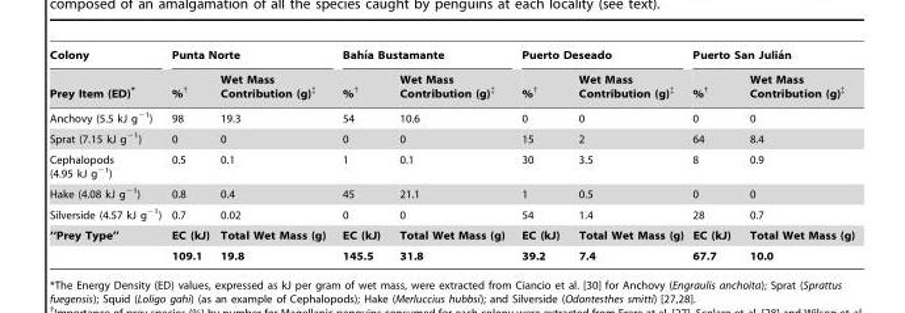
<table><thead><tr><td rowspan="2">Colony Prey Item (ED)*</td><td colspan="2">Punta Norte</td><td colspan="2">Bahı´a Bustamante</td><td colspan="2">Puerto Deseado</td><td colspan="2">Puerto San Julia´n</td></tr><tr><td>%†</td><td>Wet Mass Contribution (g)‡</td><td>%†</td><td>Wet Mass Contribution (g)‡</td><td>%†</td><td>Wet Mass Contribution (g)‡</td><td>%†</td><td>Wet Mass Contribution (g)‡</td></tr></thead><tbody><tr><td>Anchovy (5.5 kJ g<sup>−1</sup>)</td><td>98</td><td>19.3</td><td>54</td><td>10.6</td><td>0</td><td>0</td><td>0</td><td>0</td></tr><tr><td>Sprat (7.15 kJ g<sup>−1</sup>)</td><td>0</td><td>0</td><td>0</td><td>0</td><td>15</td><td>2</td><td>64</td><td>8.4</td></tr><tr><td>Cephalopods (4.95 kJ g<sup>−1</sup>)</td><td>0.5</td><td>0.1</td><td>1</td><td>0.1</td><td>30</td><td>3.5</td><td>8</td><td>0.9</td></tr><tr><td>Hake (4.08 kJ g<sup>−1</sup>)</td><td>0.8</td><td>0.4</td><td>45</td><td>21.1</td><td>1</td><td>0.5</td><td>0</td><td>0</td></tr><tr><td>Silverside (4.57 kJ g<sup>−1</sup>)</td><td>0.7</td><td>0.02</td><td>0</td><td>0</td><td>54</td><td>1.4</td><td>28</td><td>0.7</td></tr><tr><td rowspan="2">‘‘Prey Type’’</td><td>EC (kJ)</td><td>Total Wet Mass (g)</td><td>EC (kJ)</td><td>Total Wet Mass (g)</td><td>EC (kJ)</td><td>Total Wet Mass (g)</td><td>EC (kJ)</td><td>Total Wet Mass (g)</td></tr><tr><td>109.1</td><td>19.8</td><td>145.5</td><td>31.8</td><td>39.2</td><td>7.4</td><td>67.7</td><td>10.0</td></tr></tbody></table>